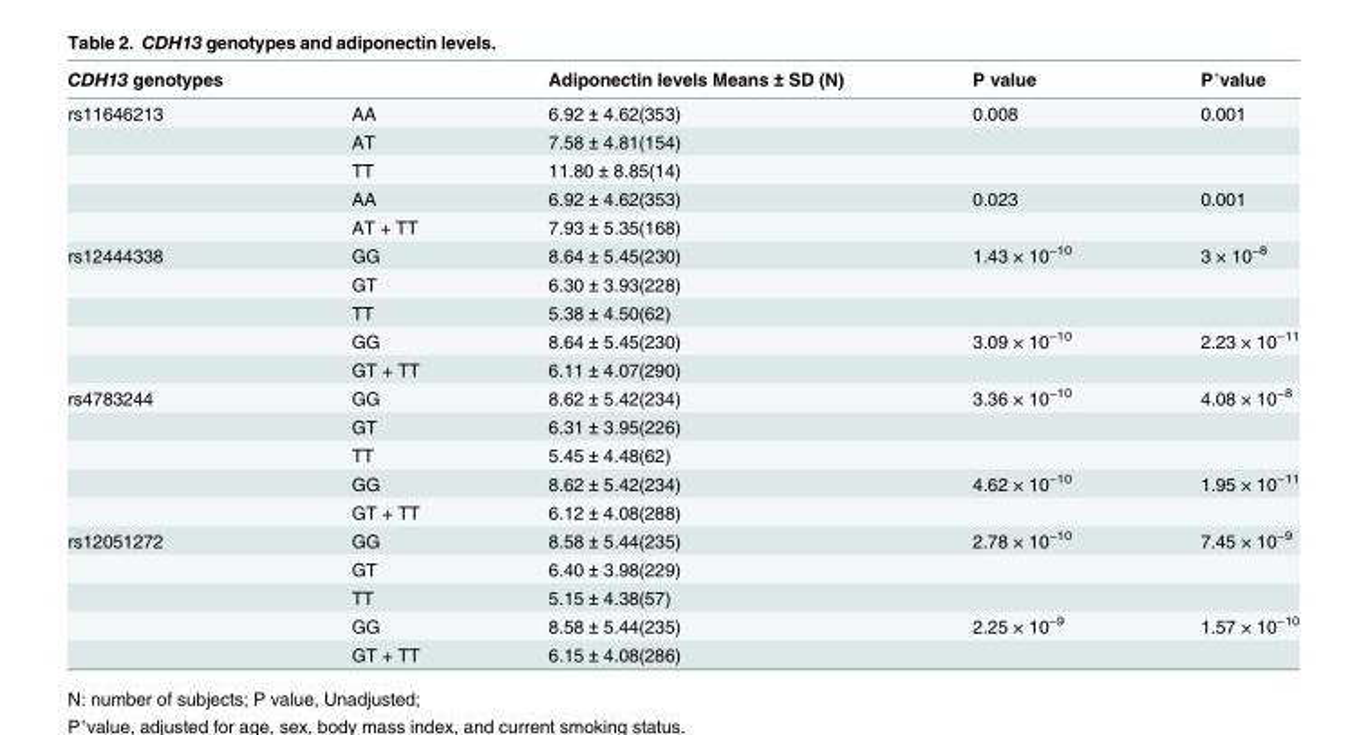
<table><thead><tr><td>CDH13 genotypes</td><td></td><td>Adiponectin levels Means ± SD (N)</td><td>P value</td><td>P°value</td></tr></thead><tbody><tr><td rowspan="5">rs11646213</td><td>AA</td><td>6.92 ± 4.62(353)</td><td>0.008</td><td>0.001</td></tr><tr><td>AT</td><td>7.58 ± 4.81(154)</td><td></td><td></td></tr><tr><td>TT</td><td>11.80 ± 8.85(14)</td><td></td><td></td></tr><tr><td>AA</td><td>6.92 ± 4.62(353)</td><td>0.023</td><td>0.001</td></tr><tr><td>AT + TT</td><td>7.93 ± 5.35(168)</td><td></td><td></td></tr><tr><td rowspan="5">rs12444338</td><td>GG</td><td>8.64 ± 5.45(230)</td><td>1.43 × 10<sup>−10</sup></td><td>3 × 10<sup>−8</sup></td></tr><tr><td>GT</td><td>6.30 ± 3.93(228)</td><td></td><td></td></tr><tr><td>TT</td><td>5.38 ± 4.50(62)</td><td></td><td></td></tr><tr><td>GG</td><td>8.64 ± 5.45(230)</td><td>3.09 × 10<sup>−10</sup></td><td>2.23 × 10<sup>−11</sup></td></tr><tr><td>GT + TT</td><td>6.11 ± 4.07(290)</td><td></td><td></td></tr><tr><td rowspan="5">rs4783244</td><td>GG</td><td>8.62 ± 5.42(234)</td><td>3.36 × 10<sup>−10</sup></td><td>4.08 × 10<sup>−8</sup></td></tr><tr><td>GT</td><td>6.31 ± 3.95(226)</td><td></td><td></td></tr><tr><td>TT</td><td>5.45 ± 4.48(62)</td><td></td><td></td></tr><tr><td>GG</td><td>8.62 ± 5.42(234)</td><td>4.62 × 10<sup>−10</sup></td><td>1.95 × 10<sup>−11</sup></td></tr><tr><td>GT + TT</td><td>6.12 ± 4.08(288)</td><td></td><td></td></tr><tr><td rowspan="5">rs12051272</td><td>GG</td><td>8.58 ± 5.44(235)</td><td>2.78 × 10<sup>−10</sup></td><td>7.45 × 10<sup>−9</sup></td></tr><tr><td>GT</td><td>6.40 ± 3.98(229)</td><td></td><td></td></tr><tr><td>TT</td><td>5.15 ± 4.38(57)</td><td></td><td></td></tr><tr><td>GG</td><td>8.58 ± 5.44(235)</td><td>2.25 × 10<sup>−9</sup></td><td>1.57 × 10<sup>−10</sup></td></tr><tr><td>GT + TT</td><td>6.15 ± 4.08(286)</td><td></td><td></td></tr></tbody></table>